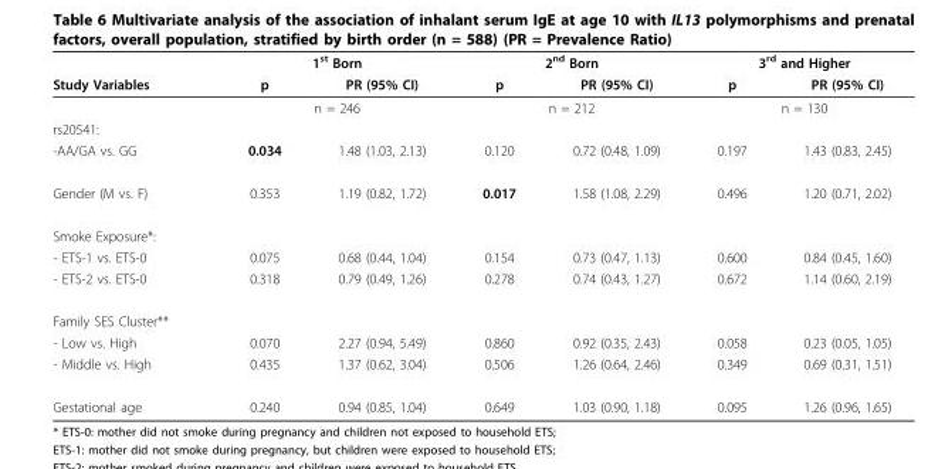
<table><thead><tr><td rowspan="2">Study Variables</td><td colspan="2">1<sup>st</sup> Born</td><td colspan="2">2<sup>nd</sup> Born</td><td colspan="2">3<sup>rd</sup> and Higher</td></tr><tr><td>p</td><td>PR (95% CI)</td><td>p</td><td>PR (95% CI)</td><td>p</td><td>PR (95% CI)</td></tr></thead><tbody><tr><td></td><td colspan="2">n = 246</td><td colspan="2">n = 212</td><td colspan="2">n = 130</td></tr><tr><td colspan="7">rs20541:</td></tr><tr><td>-AA/GA vs. GG</td><td>0.034</td><td>1.48 (1.03, 2.13)</td><td>0.120</td><td>0.72 (0.48, 1.09)</td><td>0.197</td><td>1.43 (0.83, 2.45)</td></tr><tr><td>Gender (M vs. F)</td><td>0.353</td><td>1.19 (0.82, 1.72)</td><td>0.017</td><td>1.58 (1.08, 2.29)</td><td>0.496</td><td>1.20 (0.71, 2.02)</td></tr><tr><td colspan="7">Smoke Exposure*:</td></tr><tr><td>- ETS-1 vs. ETS-0</td><td>0.075</td><td>0.68 (0.44, 1.04)</td><td>0.154</td><td>0.73 (0.47, 1.13)</td><td>0.600</td><td>0.84 (0.45, 1.60)</td></tr><tr><td>- ETS-2 vs. ETS-0</td><td>0.318</td><td>0.79 (0.49, 1.26)</td><td>0.278</td><td>0.74 (0.43, 1.27)</td><td>0.672</td><td>1.14 (0.60, 2.19)</td></tr><tr><td colspan="7">Family SES Cluster**</td></tr><tr><td>- Low vs. High</td><td>0.070</td><td>2.27 (0.94, 5.49)</td><td>0.860</td><td>0.92 (0.35, 2.43)</td><td>0.058</td><td>0.23 (0.05, 1.05)</td></tr><tr><td>- Middle vs. High</td><td>0.435</td><td>1.37 (0.62, 3.04)</td><td>0.506</td><td>1.26 (0.64, 2.46)</td><td>0.349</td><td>0.69 (0.31, 1.51)</td></tr><tr><td>Gestational age</td><td>0.240</td><td>0.94 (0.85, 1.04)</td><td>0.649</td><td>1.03 (0.90, 1.18)</td><td>0.095</td><td>1.26 (0.96, 1.65)</td></tr></tbody></table>